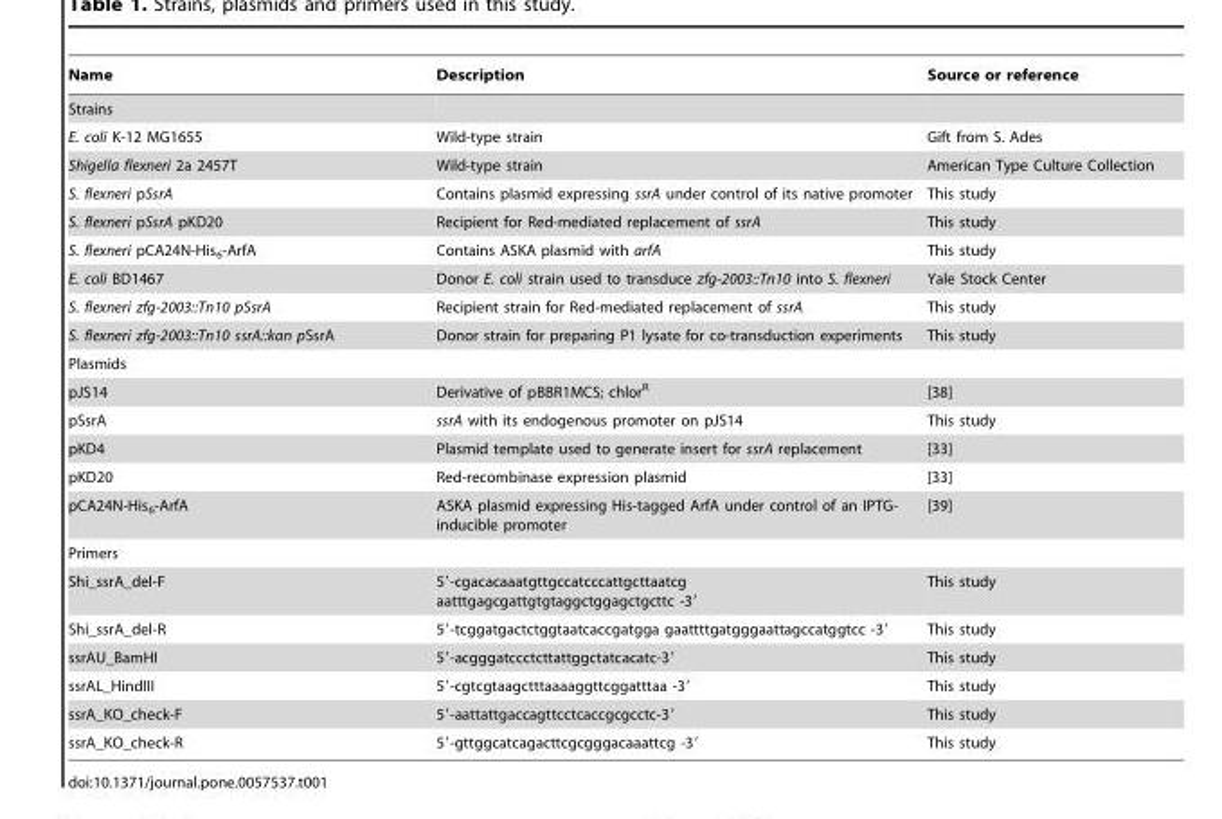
<table><thead><tr><td>Name</td><td>Description</td><td>Source or reference</td></tr></thead><tbody><tr><td colspan="3">Strains</td></tr><tr><td>E. coli K-12 MG1655</td><td>Wild-type strain</td><td>Gift from S. Ades</td></tr><tr><td>Shigella flexneri 2a 2457T</td><td>Wild-type strain</td><td>American Type Culture Collection</td></tr><tr><td>S. flexneri pSsrA</td><td>Contains plasmid expressing ssrA under control of its native promoter</td><td>This study</td></tr><tr><td>S. flexneri pSsrA pKD20</td><td>Recipient for Red-mediated replacement of ssrA</td><td>This study</td></tr><tr><td>S. flexneri pCA24N-His<sub>6</sub>-ArfA</td><td>Contains ASKA plasmid with arfA</td><td>This study</td></tr><tr><td>E. coli BD1467</td><td>Donor E. coli strain used to transduce zfg-2003::Tn10 into S. flexneri</td><td>Yale Stock Center</td></tr><tr><td>S. flexneri zfg-2003::Tn10 pSsrA</td><td>Recipient strain for Red-mediated replacement of ssrA</td><td>This study</td></tr><tr><td>S. flexneri zfg-2003::Tn10 ssrA::kan pSsrA</td><td>Donor strain for preparing P1 lysate for co-transduction experiments</td><td>This study</td></tr><tr><td colspan="3">Plasmids</td></tr><tr><td>pJS14</td><td>Derivative of pBBR1MCS; chlor<sup>R</sup></td><td>[38]</td></tr><tr><td>pSsrA</td><td>ssrA with its endogenous promoter on pJS14</td><td>This study</td></tr><tr><td>pKD4</td><td>Plasmid template used to generate insert for ssrA replacement</td><td>[33]</td></tr><tr><td>pKD20</td><td>Red-recombinase expression plasmid</td><td>[33]</td></tr><tr><td>pCA24N-His<sub>6</sub>-ArfA</td><td>ASKA plasmid expressing His-tagged ArfA under control of an IPTG- inducible promoter</td><td>[39]</td></tr><tr><td colspan="3">Primers</td></tr><tr><td>Shi_ssrA_del-F</td><td>5′-cgacacaaatgttgccatcccattgcttaatcg aatttgagcgattgtgtaggctggagctgcttc -3′</td><td>This study</td></tr><tr><td>Shi_ssrA_del-R</td><td>5′-tcggatgactctggtaatcaccgatgga gaattttgatgggaattagccatggtcc -3′</td><td>This study</td></tr><tr><td>ssrAU_BamHI</td><td>5′-acgggatccctcttattggctatcacatc-3′</td><td>This study</td></tr><tr><td>ssrAL_HindIII</td><td>5′-cgtcgtaagctttaaaaggttcggatttaa -3′</td><td>This study</td></tr><tr><td>ssrA_KO_check-F</td><td>5′-aattattgaccagttcctcaccgcgcctc-3′</td><td>This study</td></tr><tr><td>ssrA_KO_check-R</td><td>5′-gttggcatcagacttcgcgggacaaattcg -3′</td><td>This study</td></tr></tbody></table>